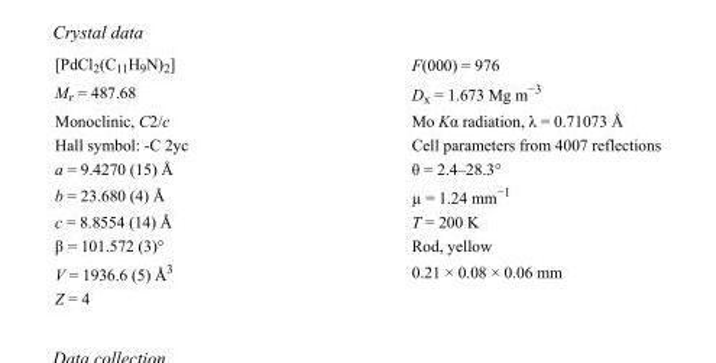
<table><tbody><tr><td>[PdCl<sub>2</sub>(C<sub>11</sub>H<sub>9</sub>N)<sub>2</sub>]</td><td>F(000) = 976</td></tr><tr><td>M<sub>r</sub> = 487.68</td><td>D<sub>x</sub> = 1.673 Mg m<sup>−3</sup></td></tr><tr><td>Monoclinic, C2/c</td><td>Mo Kα radiation, λ = 0.71073 Å</td></tr><tr><td>Hall symbol: -C 2yc</td><td>Cell parameters from 4007 reflections</td></tr><tr><td>a = 9.4270 (15) Å</td><td>θ = 2.4–28.3°</td></tr><tr><td>b = 23.680 (4) Å</td><td>µ = 1.24 mm<sup>−1</sup></td></tr><tr><td>c = 8.8554 (14) Å</td><td>T = 200 K</td></tr><tr><td>β = 101.572 (3)°</td><td>Rod, yellow</td></tr><tr><td>V = 1936.6 (5) Å<sup>3</sup></td><td>0.21 × 0.08 × 0.06 mm</td></tr><tr><td>Z = 4</td><td></td></tr></tbody></table>